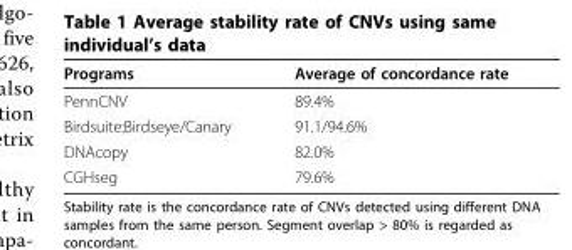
<table><thead><tr><td>Programs</td><td>Average of concordance rate</td></tr></thead><tbody><tr><td>PennCNV</td><td>89.4%</td></tr><tr><td>Birdsuite:Birdseye/Canary</td><td>91.1/94.6%</td></tr><tr><td>DNAcopy</td><td>82.0%</td></tr><tr><td>CGHseg</td><td>79.6%</td></tr></tbody></table>